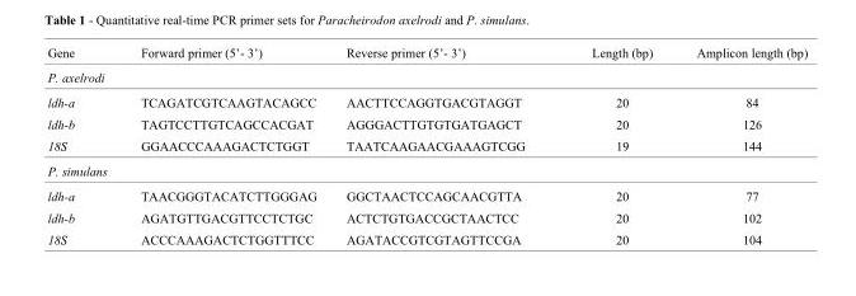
<table><thead><tr><td>Gene</td><td>Forward primer (5’- 3’)</td><td>Reverse primer (5’- 3’)</td><td>Length (bp)</td><td>Amplicon length (bp)</td></tr></thead><tbody><tr><td colspan="5">P. axelrodi</td></tr><tr><td>ldh-a</td><td>TCAGATCGTCAAGTACAGCC</td><td>AACTTCCAGGTGACGTAGGT</td><td>20</td><td>84</td></tr><tr><td>ldh-b</td><td>TAGTCCTTGTCAGCCACGAT</td><td>AGGGACTTGTGTGATGAGCT</td><td>20</td><td>126</td></tr><tr><td>18S</td><td>GGAACCCAAAGACTCTGGT</td><td>TAATCAAGAACGAAAGTCGG</td><td>19</td><td>144</td></tr><tr><td colspan="5">P. simulans</td></tr><tr><td>ldh-a</td><td>TAACGGGTACATCTTGGGAG</td><td>GGCTAACTCCAGCAACGTTA</td><td>20</td><td>77</td></tr><tr><td>ldh-b</td><td>AGATGTTGACGTTCCTCTGC</td><td>ACTCTGTGACCGCTAACTCC</td><td>20</td><td>102</td></tr><tr><td>18S</td><td>ACCCAAAGACTCTGGTTTCC</td><td>AGATACCGTCGTAGTTCCGA</td><td>20</td><td>104</td></tr></tbody></table>